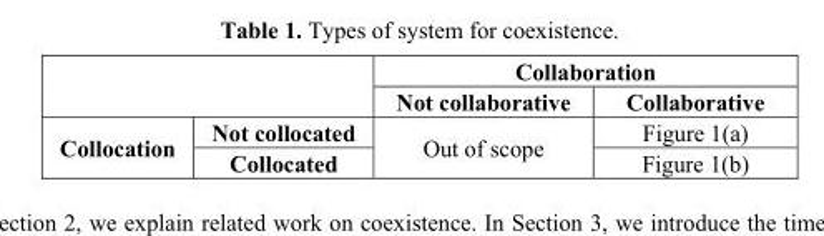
<table><thead><tr><td rowspan="2"></td><td rowspan="2"></td><td colspan="2">Collaboration</td></tr><tr><td>Not collaborative</td><td>Collaborative</td></tr></thead><tbody><tr><td rowspan="2">Collocation</td><td>Not collocated</td><td rowspan="2">Out of scope</td><td>Figure 1(a)</td></tr><tr><td>Collocated</td><td>Figure 1(b)</td></tr></tbody></table>